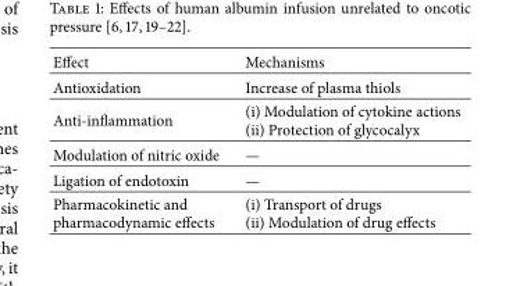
<table><thead><tr><td>Effect</td><td>Mechanisms</td></tr></thead><tbody><tr><td>Antioxidation</td><td>Increase of plasma thiols</td></tr><tr><td>Anti-inflammation</td><td>(i) Modulation of cytokine actions (ii) Protection of glycocalyx</td></tr><tr><td>Modulation of nitric oxide</td><td>—</td></tr><tr><td>Ligation of endotoxin</td><td>—</td></tr><tr><td>Pharmacokinetic and pharmacodynamic effects</td><td>(i) Transport of drugs (ii) Modulation of drug effects</td></tr></tbody></table>